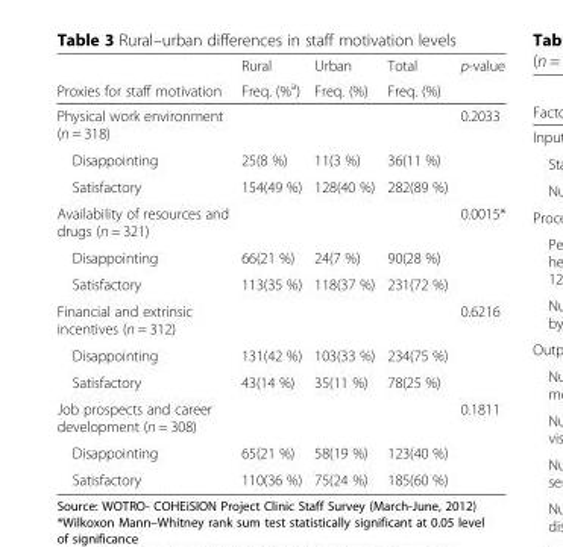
<table><thead><tr><td rowspan="2">Proxies for staff motivation</td><td rowspan="2">Rural Freq. (%<sup>a</sup>)</td><td rowspan="2">Urban Freq. (%)</td><td rowspan="2">Total Freq. (%)</td><td rowspan="2">p-value</td></tr><tr></tr></thead><tbody><tr><td>Physical work environment (n = 318)</td><td></td><td></td><td></td><td>0.2033</td></tr><tr><td>Disappointing</td><td>25(8 %)</td><td>11(3 %)</td><td>36(11 %)</td><td></td></tr><tr><td>Satisfactory</td><td>154(49 %)</td><td>128(40 %)</td><td>282(89 %)</td><td></td></tr><tr><td>Availability of resources and drugs (n = 321)</td><td></td><td></td><td></td><td>0.0015*</td></tr><tr><td>Disappointing</td><td>66(21 %)</td><td>24(7 %)</td><td>90(28 %)</td><td></td></tr><tr><td>Satisfactory</td><td>113(35 %)</td><td>118(37 %)</td><td>231(72 %)</td><td></td></tr><tr><td>Financial and extrinsic incentives (n = 312)</td><td></td><td></td><td></td><td>0.6216</td></tr><tr><td>Disappointing</td><td>131(42 %)</td><td>103(33 %)</td><td>234(75 %)</td><td></td></tr><tr><td>Satisfactory</td><td>43(14 %)</td><td>35(11 %)</td><td>78(25 %)</td><td></td></tr><tr><td>Job prospects and career development (n = 308)</td><td></td><td></td><td></td><td>0.1811</td></tr><tr><td>Disappointing</td><td>65(21 %)</td><td>58(19 %)</td><td>123(40 %)</td><td></td></tr><tr><td>Satisfactory</td><td>110(36 %)</td><td>75(24 %)</td><td>185(60 %)</td><td></td></tr></tbody></table>